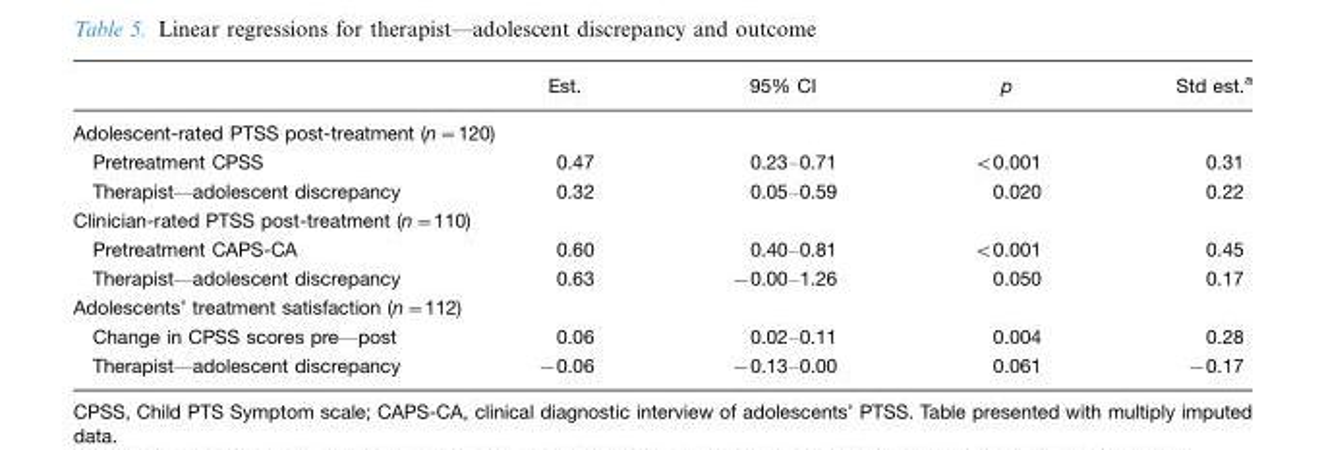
<table><thead><tr><td></td><td>Est.</td><td>95% CI</td><td>p</td><td>Std est.<sup>a</sup></td></tr></thead><tbody><tr><td colspan="5">Adolescent-rated PTSS post-treatment (n=120)</td></tr><tr><td>Pretreatment CPSS</td><td>0.47</td><td>0.23–0.71</td><td>&lt;0.001</td><td>0.31</td></tr><tr><td>Therapist*adolescent discrepancy</td><td>0.32</td><td>0.05–0.59</td><td>0.020</td><td>0.22</td></tr><tr><td colspan="5">Clinician-rated PTSS post-treatment (n=110)</td></tr><tr><td>Pretreatment CAPS-CA</td><td>0.60</td><td>0.40–0.81</td><td>&lt;0.001</td><td>0.45</td></tr><tr><td>Therapist*adolescent discrepancy</td><td>0.63</td><td>−0.00–1.26</td><td>0.050</td><td>0.17</td></tr><tr><td colspan="5">Adolescents’ treatment satisfaction (n=112)</td></tr><tr><td>Change in CPSS scores pre*post</td><td>0.06</td><td>0.02–0.11</td><td>0.004</td><td>0.28</td></tr><tr><td>Therapist*adolescent discrepancy</td><td>−0.06</td><td>−0.13–0.00</td><td>0.061</td><td>−0.17</td></tr></tbody></table>